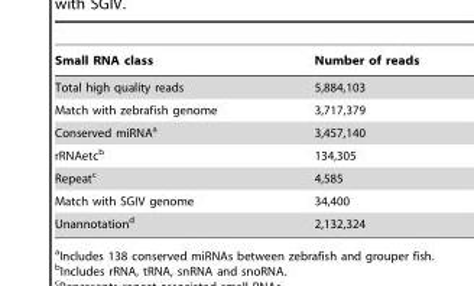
<table><thead><tr><td>Small RNA class</td><td>Number of reads</td></tr></thead><tbody><tr><td>Total high quality reads</td><td>5,884,103</td></tr><tr><td>Match with zebrafish genome</td><td>3,717,379</td></tr><tr><td>Conserved miRNA<sup>a</sup></td><td>3,457,140</td></tr><tr><td>rRNAetc<sup>b</sup></td><td>134,305</td></tr><tr><td>Repeat<sup>c</sup></td><td>4,585</td></tr><tr><td>Match with SGIV genome</td><td>34,400</td></tr><tr><td>Unannotation<sup>d</sup></td><td>2,132,324</td></tr></tbody></table>